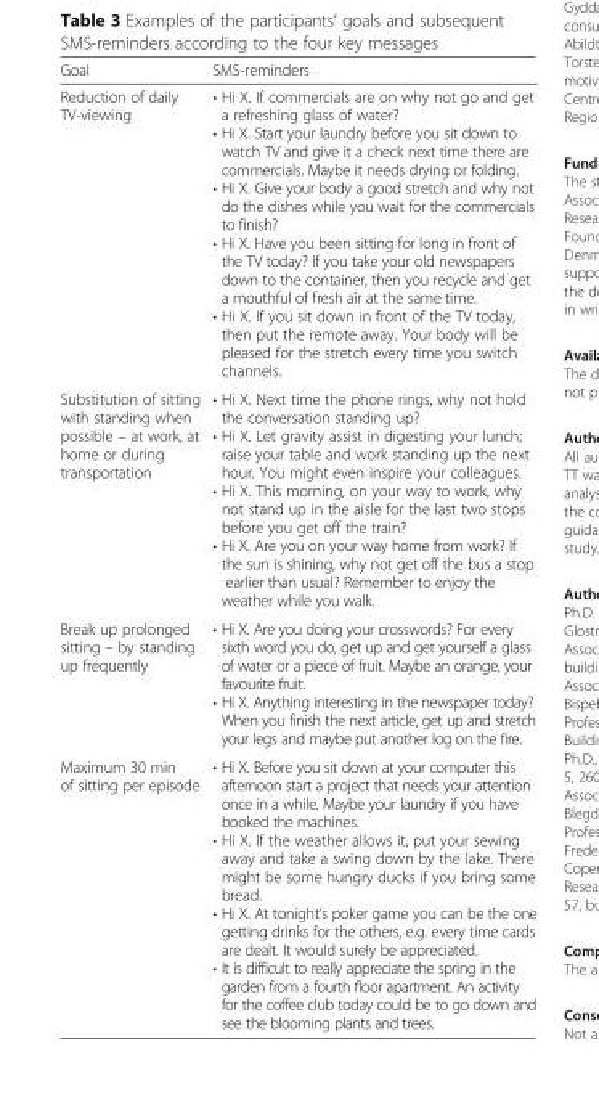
<table><thead><tr><td>Goal</td><td>SMS-reminders</td></tr></thead><tbody><tr><td>Reduction of daily TV-viewing</td><td>• Hi X. If commercials are on why not go and get a refreshing glass of water? • Hi X. Start your laundry before you sit down to watch TV and give it a check next time there are commercials. Maybe it needs drying or folding. • Hi X. Give your body a good stretch and why not do the dishes while you wait for the commercials to finish? • Hi X. Have you been sitting for long in front of the TV today? If you take your old newspapers down to the container, then you recycle and get a mouthful of fresh air at the same time. • Hi X. If you sit down in front of the TV today, then put the remote away. Your body will be pleased for the stretch every time you switch channels.</td></tr><tr><td>Substitution of sitting with standing when possible – at work, at home or during transportation</td><td>• Hi X. Next time the phone rings, why not hold the conversation standing up? • Hi X. Let gravity assist in digesting your lunch; raise your table and work standing up the next hour. You might even inspire your colleagues. • Hi X. This morning, on your way to work, why not stand up in the aisle for the last two stops before you get off the train? • Hi X. Are you on your way home from work? If the sun is shining, why not get off the bus a stop earlier than usual? Remember to enjoy the weather while you walk.</td></tr><tr><td>Break up prolonged sitting – by standing up frequently</td><td>• Hi X. Are you doing your crosswords? For every sixth word you do, get up and get yourself a glass of water or a piece of fruit. Maybe an orange, your favourite fruit. • Hi X. Anything interesting in the newspaper today? When you finish the next article, get up and stretch your legs and maybe put another log on the fire.</td></tr><tr><td>Maximum 30 min of sitting per episode</td><td>• Hi X. Before you sit down at your computer this afternoon start a project that needs your attention once in a while. Maybe your laundry if you have booked the machines. • Hi X. If the weather allows it, put your sewing away and take a swing down by the lake. There might be some hungry ducks if you bring some bread. • Hi X. At tonight’s poker game you can be the one getting drinks for the others, e.g. every time cards are dealt. It would surely be appreciated. • It is difficult to really appreciate the spring in the garden from a fourth floor apartment. An activity for the coffee club today could be to go down and see the blooming plants and trees.</td></tr></tbody></table>